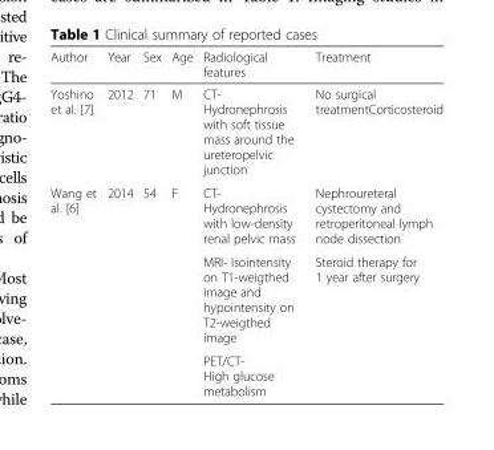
<table><thead><tr><td>Author</td><td>Year</td><td>Sex</td><td>Age</td><td>Radiological features</td><td>Treatment</td></tr></thead><tbody><tr><td>Yoshino et al. [7]</td><td>2012</td><td>71</td><td>M</td><td>CT- Hydronephrosis with soft tissue mass around the ureteropelvic junction</td><td>No surgical treatmentCorticosteroid</td></tr><tr><td rowspan="3">Wang et al. [6]</td><td rowspan="3">2014</td><td rowspan="3">54</td><td rowspan="3">F</td><td>CT- Hydronephrosis with low-density renal pelvic mass</td><td>Nephroureteral cystectomy and retroperitoneal lymph node dissection</td></tr><tr><td>MRI- Isointensity on T1-weigthed image and hypointensity on T2-weigthed image</td><td rowspan="2">Steroid therapy for 1 year after surgery</td></tr><tr><td>PET/CT- High glucose metabolism</td></tr></tbody></table>